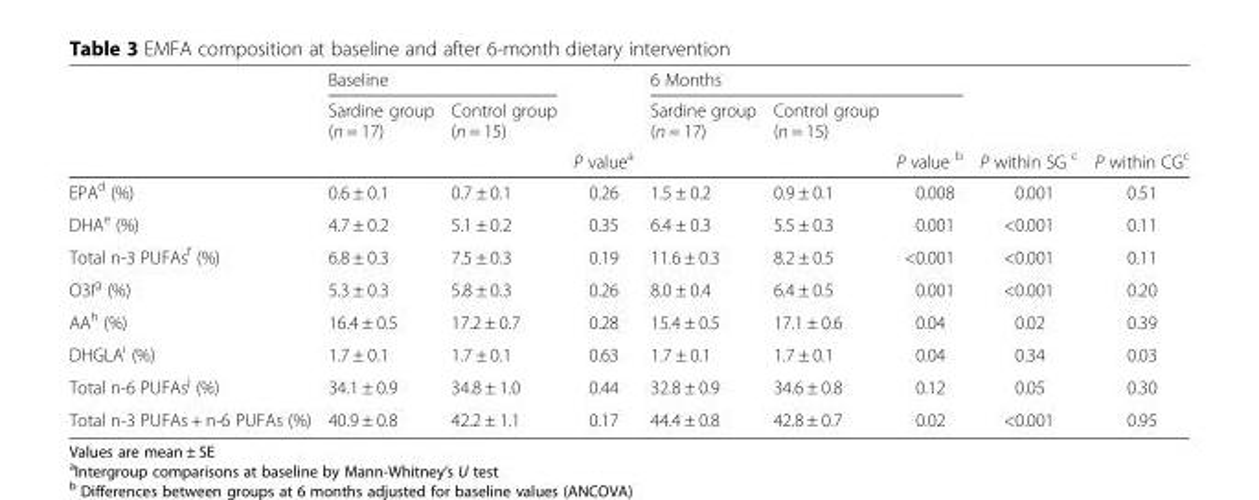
<table><thead><tr><td rowspan="3"></td><td colspan="2">Baseline</td><td rowspan="3">P value<sup>a</sup></td><td colspan="3">6 Months</td><td rowspan="3">P within SG <sup>c</sup></td><td rowspan="3">P within CG<sup>c</sup></td></tr><tr><td rowspan="2">Sardine group (n = 17)</td><td rowspan="2">Control group (n = 15)</td><td rowspan="2">Sardine group (n = 17)</td><td rowspan="2">Control group (n = 15)</td><td rowspan="2">P value <sup>b</sup></td></tr><tr></tr></thead><tbody><tr><td>EPA<sup>d</sup> (%)</td><td>0.6 ± 0.1</td><td>0.7 ± 0.1</td><td>0.26</td><td>1.5 ± 0.2</td><td>0.9 ± 0.1</td><td>0.008</td><td>0.001</td><td>0.51</td></tr><tr><td>DHA<sup>e</sup> (%)</td><td>4.7 ± 0.2</td><td>5.1 ± 0.2</td><td>0.35</td><td>6.4 ± 0.3</td><td>5.5 ± 0.3</td><td>0.001</td><td>&lt;0.001</td><td>0.11</td></tr><tr><td>Total n-3 PUFAs<sup>f</sup> (%)</td><td>6.8 ± 0.3</td><td>7.5 ± 0.3</td><td>0.19</td><td>11.6 ± 0.3</td><td>8.2 ± 0.5</td><td>&lt;0.001</td><td>&lt;0.001</td><td>0.11</td></tr><tr><td>O3I<sup>g</sup> (%)</td><td>5.3 ± 0.3</td><td>5.8 ± 0.3</td><td>0.26</td><td>8.0 ± 0.4</td><td>6.4 ± 0.5</td><td>0.001</td><td>&lt;0.001</td><td>0.20</td></tr><tr><td>AA<sup>h</sup> (%)</td><td>16.4 ± 0.5</td><td>17.2 ± 0.7</td><td>0.28</td><td>15.4 ± 0.5</td><td>17.1 ± 0.6</td><td>0.04</td><td>0.02</td><td>0.39</td></tr><tr><td>DHGLA<sup>i</sup> (%)</td><td>1.7 ± 0.1</td><td>1.7 ± 0.1</td><td>0.63</td><td>1.7 ± 0.1</td><td>1.7 ± 0.1</td><td>0.04</td><td>0.34</td><td>0.03</td></tr><tr><td>Total n-6 PUFAs<sup>j</sup> (%)</td><td>34.1 ± 0.9</td><td>34.8 ± 1.0</td><td>0.44</td><td>32.8 ± 0.9</td><td>34.6 ± 0.8</td><td>0.12</td><td>0.05</td><td>0.30</td></tr><tr><td>Total n-3 PUFAs + n-6 PUFAs (%)</td><td>40.9 ± 0.8</td><td>42.2 ± 1.1</td><td>0.17</td><td>44.4 ± 0.8</td><td>42.8 ± 0.7</td><td>0.02</td><td>&lt;0.001</td><td>0.95</td></tr></tbody></table>